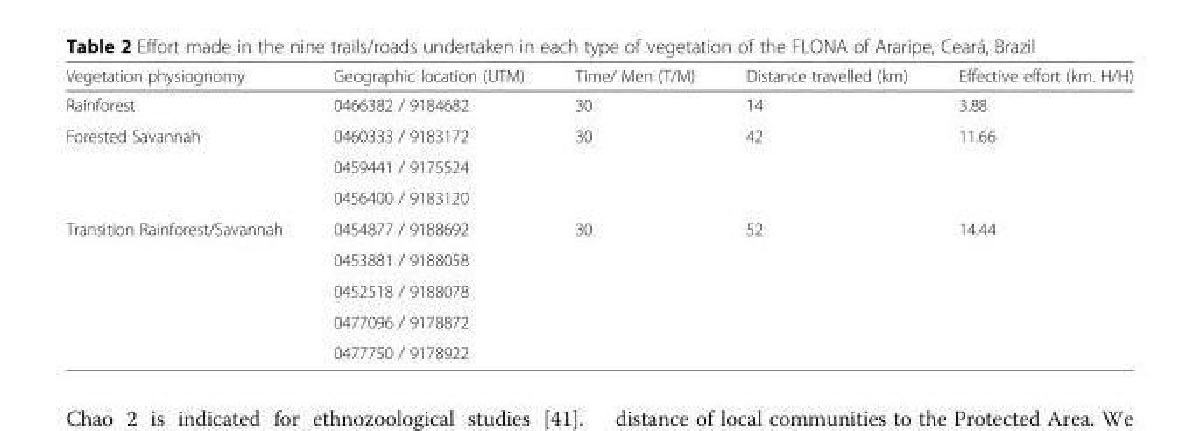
<table><thead><tr><td>Vegetation physiognomy</td><td>Geographic location (UTM)</td><td>Time/ Men (T/M)</td><td>Distance travelled (km)</td><td>Effective effort (km. H/H)</td></tr></thead><tbody><tr><td>Rainforest</td><td>0466382 / 9184682</td><td>30</td><td>14</td><td>3.88</td></tr><tr><td rowspan="3">Forested Savannah</td><td>0460333 / 9183172</td><td rowspan="3">30</td><td rowspan="3">42</td><td rowspan="3">11.66</td></tr><tr><td>0459441 / 9175524</td></tr><tr><td>0456400 / 9183120</td></tr><tr><td rowspan="5">Transition Rainforest/Savannah</td><td>0454877 / 9188692</td><td rowspan="5">30</td><td rowspan="5">52</td><td rowspan="5">14.44</td></tr><tr><td>0453881 / 9188058</td></tr><tr><td>0452518 / 9188078</td></tr><tr><td>0477096 / 9178872</td></tr><tr><td>0477750 / 9178922</td></tr></tbody></table>